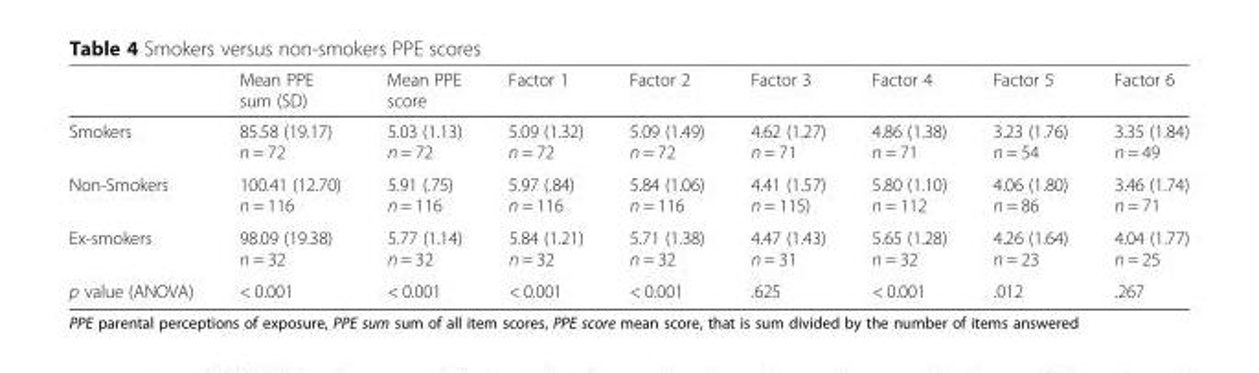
<table><thead><tr><td></td><td>Mean PPE sum (SD)</td><td>Mean PPE score</td><td>Factor 1</td><td>Factor 2</td><td>Factor 3</td><td>Factor 4</td><td>Factor 5</td><td>Factor 6</td></tr></thead><tbody><tr><td>Smokers</td><td>85.58 (19.17) n = 72</td><td>5.03 (1.13) n = 72</td><td>5.09 (1.32) n = 72</td><td>5.09 (1.49) n = 72</td><td>4.62 (1.27) n = 71</td><td>4.86 (1.38) n = 71</td><td>3.23 (1.76) n = 54</td><td>3.35 (1.84) n = 49</td></tr><tr><td>Non-Smokers</td><td>100.41 (12.70) n = 116</td><td>5.91 (.75) n = 116</td><td>5.97 (.84) n = 116</td><td>5.84 (1.06) n = 116</td><td>4.41 (1.57) n = 115)</td><td>5.80 (1.10) n = 112</td><td>4.06 (1.80) n = 86</td><td>3.46 (1.74) n = 71</td></tr><tr><td>Ex-smokers</td><td>98.09 (19.38) n = 32</td><td>5.77 (1.14) n = 32</td><td>5.84 (1.21) n = 32</td><td>5.71 (1.38) n = 32</td><td>4.47 (1.43) n = 31</td><td>5.65 (1.28) n = 32</td><td>4.26 (1.64) n = 23</td><td>4.04 (1.77) n = 25</td></tr><tr><td>p value (ANOVA)</td><td>&lt; 0.001</td><td>&lt; 0.001</td><td>&lt; 0.001</td><td>&lt; 0.001</td><td>.625</td><td>&lt; 0.001</td><td>.012</td><td>.267</td></tr></tbody></table>